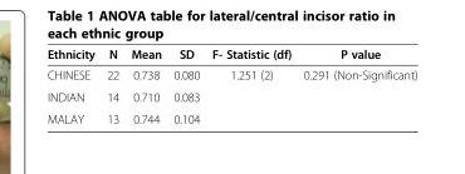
<table><thead><tr><td>Ethnicity</td><td>N</td><td>Mean</td><td>SD</td><td>F- Statistic (df)</td><td>P value</td></tr></thead><tbody><tr><td>CHINESE</td><td>22</td><td>0.738</td><td>0.080</td><td rowspan="2">1.251 (2)</td><td rowspan="2">0.291 (Non-Significant)</td></tr><tr><td>INDIAN</td><td>14</td><td>0.710</td><td>0.083</td></tr><tr><td>MALAY</td><td>13</td><td>0.744</td><td>0.104</td><td></td><td></td></tr></tbody></table>